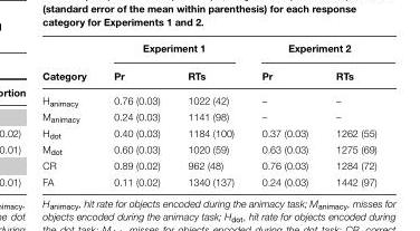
<table><thead><tr><td rowspan="2">Category</td><td colspan="2">Experiment 1</td><td colspan="2">Experiment 2</td></tr><tr><td>Pr</td><td>RTs</td><td>Pr</td><td>RTs</td></tr></thead><tbody><tr><td>H<sub>animacy</sub></td><td>0.76 (0.03)</td><td>1022 (42)</td><td>–</td><td>–</td></tr><tr><td>M<sub>animacy</sub></td><td>0.24 (0.03)</td><td>1141 (98)</td><td>–</td><td>–</td></tr><tr><td>H<sub>dot</sub></td><td>0.40 (0.03)</td><td>1184 (100)</td><td>0.37 (0.03)</td><td>1262 (55)</td></tr><tr><td>M<sub>dot</sub></td><td>0.60 (0.03)</td><td>1020 (59)</td><td>0.63 (0.03)</td><td>1275 (69)</td></tr><tr><td>CR</td><td>0.89 (0.02)</td><td>962 (48)</td><td>0.76 (0.03)</td><td>1284 (72)</td></tr><tr><td>FA</td><td>0.11 (0.02)</td><td>1340 (137)</td><td>0.24 (0.03)</td><td>1442 (97)</td></tr></tbody></table>